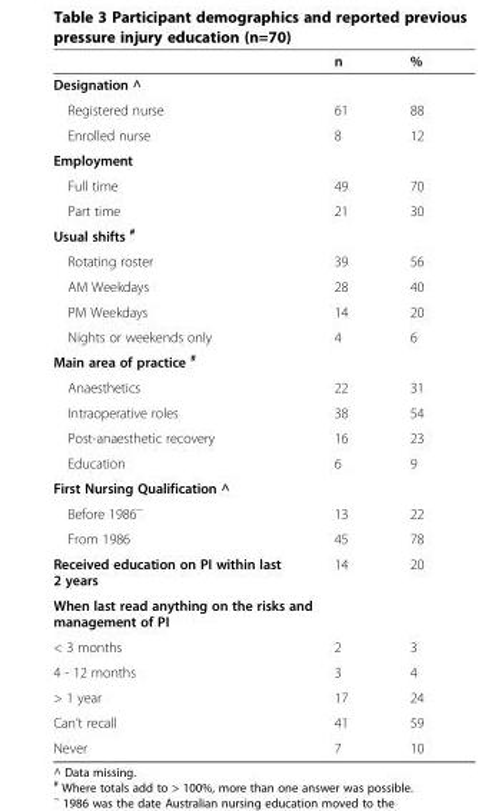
<table><thead><tr><td></td><td>n</td><td>%</td></tr></thead><tbody><tr><td colspan="3">Designation ^</td></tr><tr><td>Registered nurse</td><td>61</td><td>88</td></tr><tr><td>Enrolled nurse</td><td>8</td><td>12</td></tr><tr><td colspan="3">Employment</td></tr><tr><td>Full time</td><td>49</td><td>70</td></tr><tr><td>Part time</td><td>21</td><td>30</td></tr><tr><td colspan="3">Usual shifts <sup>#</sup></td></tr><tr><td>Rotating roster</td><td>39</td><td>56</td></tr><tr><td>AM Weekdays</td><td>28</td><td>40</td></tr><tr><td>PM Weekdays</td><td>14</td><td>20</td></tr><tr><td>Nights or weekends only</td><td>4</td><td>6</td></tr><tr><td colspan="3">Main area of practice <sup>#</sup></td></tr><tr><td>Anaesthetics</td><td>22</td><td>31</td></tr><tr><td>Intraoperative roles</td><td>38</td><td>54</td></tr><tr><td>Post-anaesthetic recovery</td><td>16</td><td>23</td></tr><tr><td>Education</td><td>6</td><td>9</td></tr><tr><td colspan="3">First Nursing Qualification ^</td></tr><tr><td>Before 1986<sup>~</sup></td><td>13</td><td>22</td></tr><tr><td>From 1986</td><td>45</td><td>78</td></tr><tr><td>Received education on PI within last 2 years</td><td>14</td><td>20</td></tr><tr><td colspan="3">When last read anything on the risks and management of PI</td></tr><tr><td>&lt; 3 months</td><td>2</td><td>3</td></tr><tr><td>4 - 12 months</td><td>3</td><td>4</td></tr><tr><td>&gt; 1 year</td><td>17</td><td>24</td></tr><tr><td>Can’t recall</td><td>41</td><td>59</td></tr><tr><td>Never</td><td>7</td><td>10</td></tr></tbody></table>